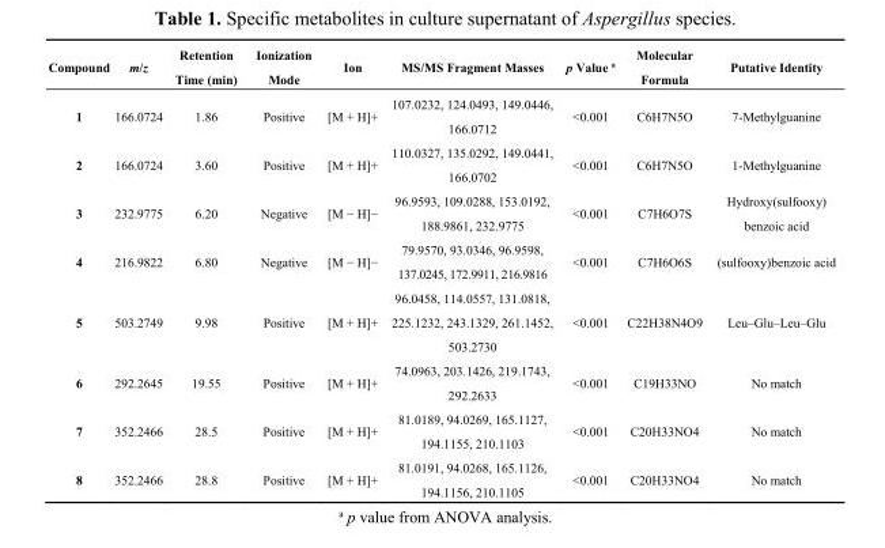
<table><thead><tr><td>Compound</td><td>m/z</td><td>Retention Time (min)</td><td>Ionization Mode</td><td>Ion</td><td>MS/MS Fragment Masses</td><td>p Value <sup>a</sup></td><td>Molecular Formula</td><td>Putative Identity</td></tr></thead><tbody><tr><td>1</td><td>166.0724</td><td>1.86</td><td>Positive</td><td>[M + H]+</td><td>107.0232, 124.0493, 149.0446, 166.0712</td><td>&lt;0.001</td><td>C6H7N5O</td><td>7-Methylguanine</td></tr><tr><td>2</td><td>166.0724</td><td>3.60</td><td>Positive</td><td>[M + H]+</td><td>110.0327, 135.0292, 149.0441, 166.0702</td><td>&lt;0.001</td><td>C6H7N5O</td><td>1-Methylguanine</td></tr><tr><td>3</td><td>232.9775</td><td>6.20</td><td>Negative</td><td>[M − H]−</td><td>96.9593, 109.0288, 153.0192, 188.9861, 232.9775</td><td>&lt;0.001</td><td>C7H6O7S</td><td>Hydroxy(sulfooxy) benzoic acid</td></tr><tr><td>4</td><td>216.9822</td><td>6.80</td><td>Negative</td><td>[M − H]−</td><td>79.9570, 93.0346, 96.9598, 137.0245, 172.9911, 216.9816</td><td>&lt;0.001</td><td>C7H6O6S</td><td>(sulfooxy)benzoic acid</td></tr><tr><td>5</td><td>503.2749</td><td>9.98</td><td>Positive</td><td>[M + H]+</td><td>96.0458, 114.0557, 131.0818, 225.1232, 243.1329, 261.1452, 503.2730</td><td>&lt;0.001</td><td>C22H38N4O9</td><td>Leu–Glu–Leu–Glu</td></tr><tr><td>6</td><td>292.2645</td><td>19.55</td><td>Positive</td><td>[M + H]+</td><td>74.0963, 203.1426, 219.1743, 292.2633</td><td>&lt;0.001</td><td>C19H33NO</td><td>No match</td></tr><tr><td>7</td><td>352.2466</td><td>28.5</td><td>Positive</td><td>[M + H]+</td><td>81.0189, 94.0269, 165.1127, 194.1155, 210.1103</td><td>&lt;0.001</td><td>C20H33NO4</td><td>No match</td></tr><tr><td>8</td><td>352.2466</td><td>28.8</td><td>Positive</td><td>[M + H]+</td><td>81.0191, 94.0268, 165.1126, 194.1156, 210.1105</td><td>&lt;0.001</td><td>C20H33NO4</td><td>No match</td></tr></tbody></table>